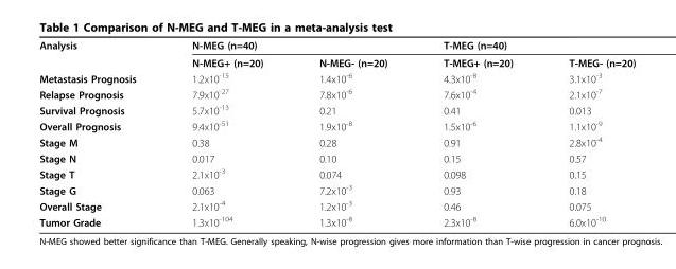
<table><tbody><tr><td rowspan="2">Analysis</td><td colspan="2">N-MEG (n=40)</td><td colspan="2">T-MEG (n=40)</td></tr><tr><td>N-MEG+ (n=20)</td><td>N-MEG- (n=20)</td><td>T-MEG+ (n=20)</td><td>T-MEG- (n=20)</td></tr><tr><td>Metastasis Prognosis</td><td>1.2x10<sup>-15</sup></td><td>1.4x10<sup>-6</sup></td><td>4.3x10<sup>-8</sup></td><td>3.1x10<sup>-3</sup></td></tr><tr><td>Relapse Prognosis</td><td>7.9x10<sup>-27</sup></td><td>7.8x10<sup>-6</sup></td><td>7.6x10<sup>-4</sup></td><td>2.1x10<sup>-7</sup></td></tr><tr><td>Survival Prognosis</td><td>5.7x10<sup>-13</sup></td><td>0.21</td><td>0.41</td><td>0.013</td></tr><tr><td>Overall Prognosis</td><td>9.4x10<sup>-51</sup></td><td>1.9x10<sup>-8</sup></td><td>1.5x10<sup>-6</sup></td><td>1.1x10<sup>-9</sup></td></tr><tr><td>Stage M</td><td>0.38</td><td>0.28</td><td>0.91</td><td>2.8x10<sup>-4</sup></td></tr><tr><td>Stage N</td><td>0.017</td><td>0.10</td><td>0.15</td><td>0.57</td></tr><tr><td>Stage T</td><td>2.1x10<sup>-3</sup></td><td>0.074</td><td>0.098</td><td>0.15</td></tr><tr><td>Stage G</td><td>0.063</td><td>7.2x10<sup>-3</sup></td><td>0.93</td><td>0.18</td></tr><tr><td>Overall Stage</td><td>2.1x10<sup>-4</sup></td><td>1.2x10<sup>-3</sup></td><td>0.46</td><td>0.075</td></tr><tr><td>Tumor Grade</td><td>1.3x10<sup>-104</sup></td><td>1.3x10<sup>-8</sup></td><td>2.3x10<sup>-8</sup></td><td>6.0x10<sup>-10</sup></td></tr></tbody></table>